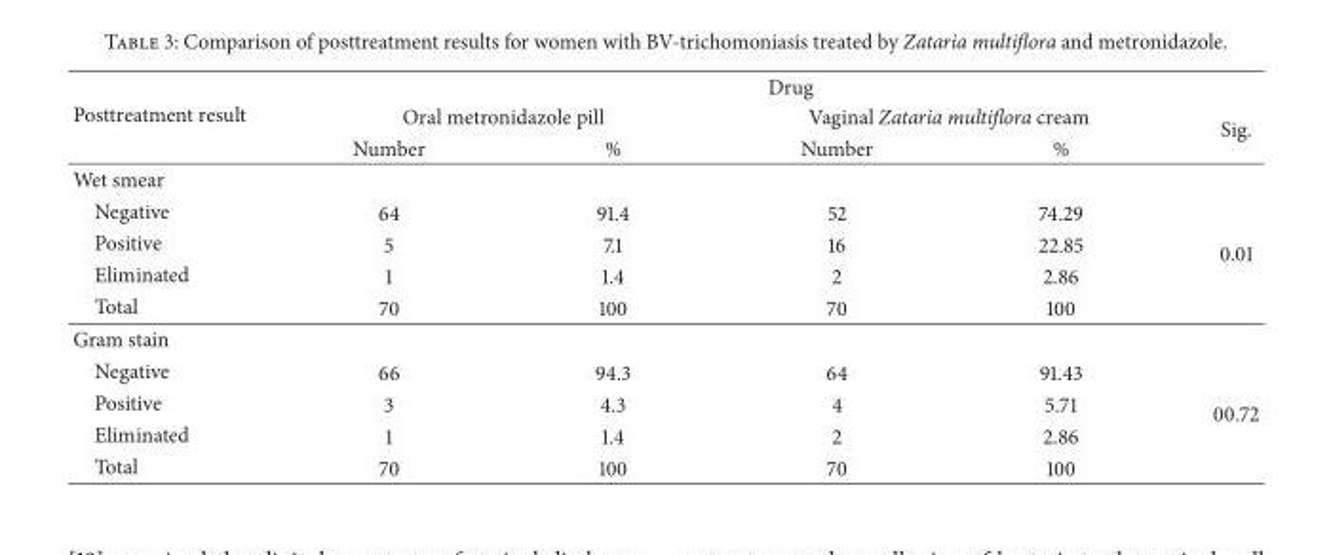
<table><thead><tr><td rowspan="3">Posttreatment result</td><td colspan="5">Drug</td></tr><tr><td colspan="2">Oral metronidazole pill</td><td colspan="2">Vaginal Zataria multiflora cream</td><td rowspan="2">Sig.</td></tr><tr><td>Number</td><td>%</td><td>Number</td><td>%</td></tr></thead><tbody><tr><td colspan="6">Wet smear</td></tr><tr><td>Negative</td><td>64</td><td>91.4</td><td>52</td><td>74.29</td><td rowspan="4">0.01</td></tr><tr><td>Positive</td><td>5</td><td>7.1</td><td>16</td><td>22.85</td></tr><tr><td>Eliminated</td><td>1</td><td>1.4</td><td>2</td><td>2.86</td></tr><tr><td>Total</td><td>70</td><td>100</td><td>70</td><td>100</td></tr><tr><td colspan="6">Gram stain</td></tr><tr><td>Negative</td><td>66</td><td>94.3</td><td>64</td><td>91.43</td><td rowspan="4">00.72</td></tr><tr><td>Positive</td><td>3</td><td>4.3</td><td>4</td><td>5.71</td></tr><tr><td>Eliminated</td><td>1</td><td>1.4</td><td>2</td><td>2.86</td></tr><tr><td>Total</td><td>70</td><td>100</td><td>70</td><td>100</td></tr></tbody></table>